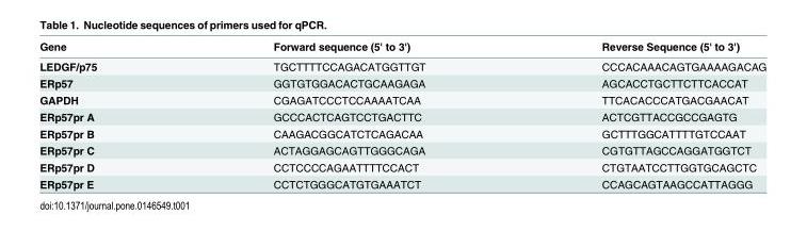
<table><thead><tr><td>Gene</td><td>Forward sequence (5&#x27; to 3&#x27;)</td><td>Reverse Sequence (5&#x27; to 3&#x27;)</td></tr></thead><tbody><tr><td>LEDGF/p75</td><td>TGCTTTTCCAGACATGGTTGT</td><td>CCCACAAACAGTGAAAAGACAG</td></tr><tr><td>ERp57</td><td>GGTGTGGACACTGCAAGAGA</td><td>AGCACCTGCTTCTTCACCAT</td></tr><tr><td>GAPDH</td><td>CGAGATCCCTCCAAAATCAA</td><td>TTCACACCCATGACGAACAT</td></tr><tr><td>ERp57pr A</td><td>GCCCACTCAGTCCTGACTTC</td><td>ACTCGTTACCGCCGAGTG</td></tr><tr><td>ERp57pr B</td><td>CAAGACGGCATCTCAGACAA</td><td>GCTTTGGCATTTTGTCCAAT</td></tr><tr><td>ERp57pr C</td><td>ACTAGGAGCAGTTGGGCAGA</td><td>CGTGTTAGCCAGGATGGTCT</td></tr><tr><td>ERp57pr D</td><td>CCTCCCCAGAATTTTCCACT</td><td>CTGTAATCCTTGGTGCAGCTC</td></tr><tr><td>ERp57pr E</td><td>CCTCTGGGCATGTGAAATCT</td><td>CCAGCAGTAAGCCATTAGGG</td></tr></tbody></table>